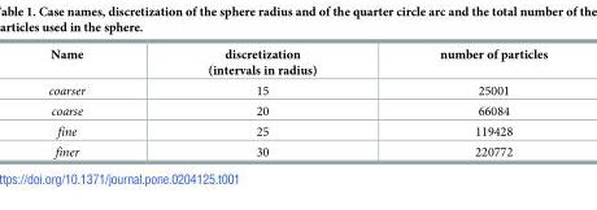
<table><thead><tr><td>Name</td><td>discretization (intervals in radius)</td><td>number of particles</td></tr></thead><tbody><tr><td>coarser</td><td>15</td><td>25001</td></tr><tr><td>coarse</td><td>20</td><td>66084</td></tr><tr><td>fine</td><td>25</td><td>119428</td></tr><tr><td>finer</td><td>30</td><td>220772</td></tr></tbody></table>